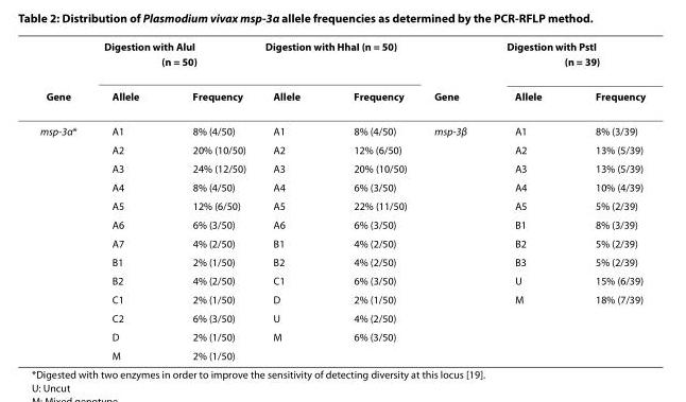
<table><thead><tr><td rowspan="2">Gene</td><td colspan="2">Digestion with AluI (n = 50)</td><td colspan="2">Digestion with HhaI (n = 50)</td><td rowspan="2">Gene</td><td colspan="2">Digestion with PstI (n = 39)</td></tr><tr><td>Allele</td><td>Frequency</td><td>Allele</td><td>Frequency</td><td>Allele</td><td>Frequency</td></tr></thead><tbody><tr><td rowspan="13">msp-3α*</td><td>A1</td><td>8% (4/50)</td><td>A1</td><td>8% (4/50)</td><td>msp-3β</td><td>A1</td><td>8% (3/39)</td></tr><tr><td>A2</td><td>20% (10/50)</td><td>A2</td><td>12% (6/50)</td><td></td><td>A2</td><td>13% (5/39)</td></tr><tr><td>A3</td><td>24% (12/50)</td><td>A3</td><td>20% (10/50)</td><td></td><td>A3</td><td>13% (5/39)</td></tr><tr><td>A4</td><td>8% (4/50)</td><td>A4</td><td>6% (3/50)</td><td></td><td>A4</td><td>10% (4/39)</td></tr><tr><td>A5</td><td>12% (6/50)</td><td>A5</td><td>22% (11/50)</td><td></td><td>A5</td><td>5% (2/39)</td></tr><tr><td>A6</td><td>6% (3/50)</td><td>A6</td><td>6% (3/50)</td><td></td><td>B1</td><td>8% (3/39)</td></tr><tr><td>A7</td><td>4% (2/50)</td><td>B1</td><td>4% (2/50)</td><td></td><td>B2</td><td>5% (2/39)</td></tr><tr><td>B1</td><td>2% (1/50)</td><td>B2</td><td>4% (2/50)</td><td></td><td>B3</td><td>5% (2/39)</td></tr><tr><td>B2</td><td>4% (2/50)</td><td>C1</td><td>6% (3/50)</td><td></td><td>U</td><td>15% (6/39)</td></tr><tr><td>C1</td><td>2% (1/50)</td><td>D</td><td>2% (1/50)</td><td></td><td>M</td><td>18% (7/39)</td></tr><tr><td>C2</td><td>6% (3/50)</td><td>U</td><td>4% (2/50)</td><td></td><td></td><td></td></tr><tr><td>D</td><td>2% (1/50)</td><td>M</td><td>6% (3/50)</td><td></td><td></td><td></td></tr><tr><td>M</td><td>2% (1/50)</td><td></td><td></td><td></td><td></td><td></td></tr></tbody></table>